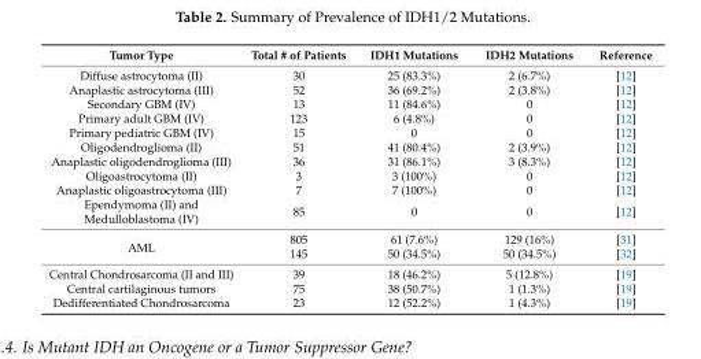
<table><thead><tr><td>Tumor Type</td><td>Total # of Patients</td><td>IDH1 Mutations</td><td>IDH2 Mutations</td><td>Reference</td></tr></thead><tbody><tr><td>Diffuse astrocytoma (II)</td><td>30</td><td>25 (83.3%)</td><td>2 (6.7%)</td><td>[12]</td></tr><tr><td>Anaplastic astrocytoma (III)</td><td>52</td><td>36 (69.2%)</td><td>2 (3.8%)</td><td>[12]</td></tr><tr><td>Secondary GBM (IV)</td><td>13</td><td>11 (84.6%)</td><td>0</td><td>[12]</td></tr><tr><td>Primary adult GBM (IV)</td><td>123</td><td>6 (4.8%)</td><td>0</td><td>[12]</td></tr><tr><td>Primary pediatric GBM (IV)</td><td>15</td><td>0</td><td>0</td><td>[12]</td></tr><tr><td>Oligodendroglioma (II)</td><td>51</td><td>41 (80.4%)</td><td>2 (3.9%)</td><td>[12]</td></tr><tr><td>Anaplastic oligodendroglioma (III)</td><td>36</td><td>31 (86.1%)</td><td>3 (8.3%)</td><td>[12]</td></tr><tr><td>Oligoastrocytoma (II)</td><td>3</td><td>3 (100%)</td><td>0</td><td>[12]</td></tr><tr><td>Anaplastic oligoastrocytoma (III)</td><td>7</td><td>7 (100%)</td><td>0</td><td>[12]</td></tr><tr><td>Ependymoma (II) and Medulloblastoma (IV)</td><td>85</td><td>0</td><td>0</td><td>[12]</td></tr><tr><td rowspan="2">AML</td><td>805</td><td>61 (7.6%)</td><td>129 (16%)</td><td>[31]</td></tr><tr><td>145</td><td>50 (34.5%)</td><td>50 (34.5%)</td><td>[32]</td></tr><tr><td>Central Chondrosarcoma (II and III)</td><td>39</td><td>18 (46.2%)</td><td>5 (12.8%)</td><td>[19]</td></tr><tr><td>Central cartilaginous tumors</td><td>75</td><td>38 (50.7%)</td><td>1 (1.3%)</td><td>[19]</td></tr><tr><td>Dedifferentiated Chondrosarcoma</td><td>23</td><td>12 (52.2%)</td><td>1 (4.3%)</td><td>[19]</td></tr></tbody></table>